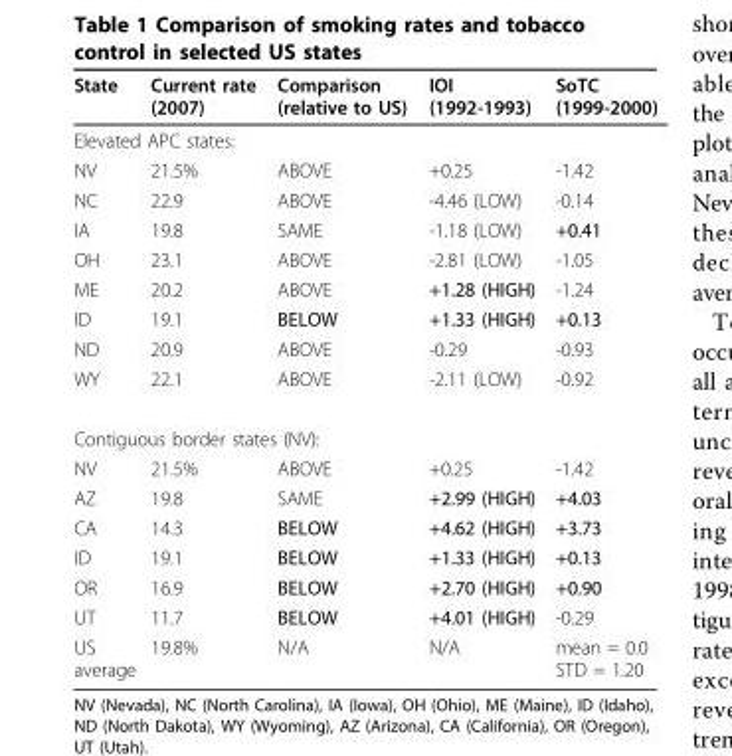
<table><thead><tr><td>State</td><td>Current rate (2007)</td><td>Comparison (relative to US)</td><td>IOI (1992-1993)</td><td>SoTC (1999-2000)</td></tr></thead><tbody><tr><td colspan="5">Elevated APC states:</td></tr><tr><td>NV</td><td>21.5%</td><td>ABOVE</td><td>+0.25</td><td>-1.42</td></tr><tr><td>NC</td><td>22.9</td><td>ABOVE</td><td>-4.46 (LOW)</td><td>-0.14</td></tr><tr><td>IA</td><td>19.8</td><td>SAME</td><td>-1.18 (LOW)</td><td>+0.41</td></tr><tr><td>OH</td><td>23.1</td><td>ABOVE</td><td>-2.81 (LOW)</td><td>-1.05</td></tr><tr><td>ME</td><td>20.2</td><td>ABOVE</td><td>+1.28 (HIGH)</td><td>-1.24</td></tr><tr><td>ID</td><td>19.1</td><td>BELOW</td><td>+1.33 (HIGH)</td><td>+0.13</td></tr><tr><td>ND</td><td>20.9</td><td>ABOVE</td><td>-0.29</td><td>-0.93</td></tr><tr><td>WY</td><td>22.1</td><td>ABOVE</td><td>-2.11 (LOW)</td><td>-0.92</td></tr><tr><td colspan="5">Contiguous border states (NV):</td></tr><tr><td>NV</td><td>21.5%</td><td>ABOVE</td><td>+0.25</td><td>-1.42</td></tr><tr><td>AZ</td><td>19.8</td><td>SAME</td><td>+2.99 (HIGH)</td><td>+4.03</td></tr><tr><td>CA</td><td>14.3</td><td>BELOW</td><td>+4.62 (HIGH)</td><td>+3.73</td></tr><tr><td>ID</td><td>19.1</td><td>BELOW</td><td>+1.33 (HIGH)</td><td>+0.13</td></tr><tr><td>OR</td><td>16.9</td><td>BELOW</td><td>+2.70 (HIGH)</td><td>+0.90</td></tr><tr><td>UT</td><td>11.7</td><td>BELOW</td><td>+4.01 (HIGH)</td><td>-0.29</td></tr><tr><td>US average</td><td>19.8%</td><td>N/A</td><td>N/A</td><td>mean = 0.0 STD = 1.20</td></tr></tbody></table>